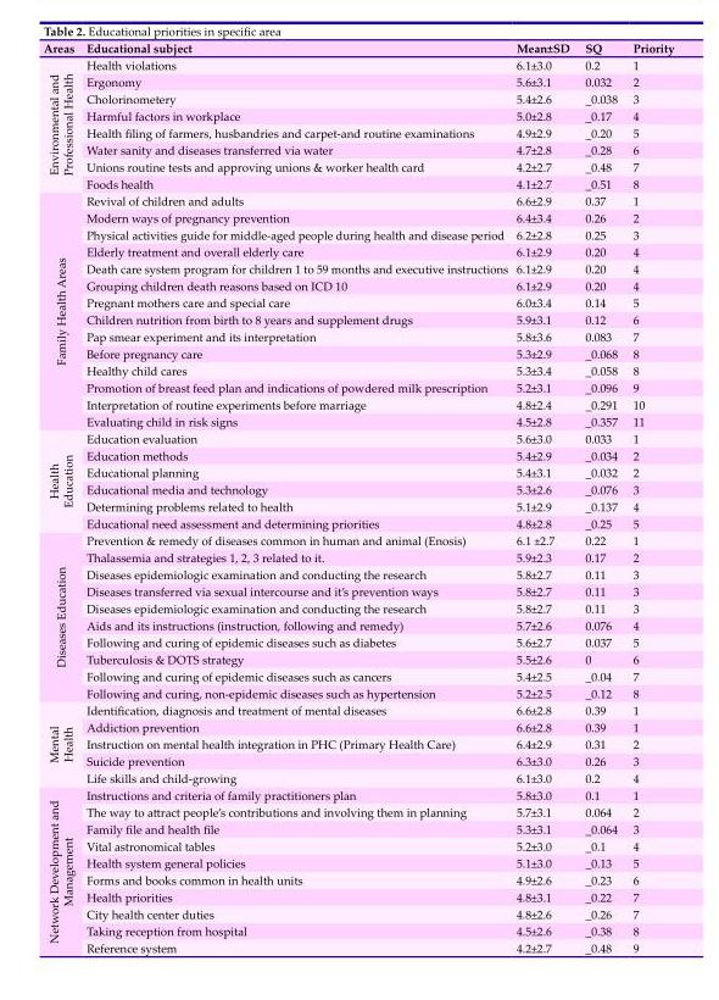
<table><thead><tr><td>Areas</td><td>Educational subject</td><td>Mean±SD</td><td>SQ</td><td>Priority</td></tr></thead><tbody><tr><td rowspan="8">Environmental and Professional Health</td><td>Health violations</td><td>6.1±3.0</td><td>0.2</td><td>1</td></tr><tr><td>Ergonomy</td><td>5.6±3.1</td><td>0.032</td><td>2</td></tr><tr><td>Cholorinometery</td><td>5.4±2.6</td><td>_0.038</td><td>3</td></tr><tr><td>Harmful factors in workplace</td><td>5.0±2.8</td><td>_0.17</td><td>4</td></tr><tr><td>Health filing of farmers, husbandries and carpet-and routine examinations</td><td>4.9±2.9</td><td>_0.20</td><td>5</td></tr><tr><td>Water sanity and diseases transferred via water</td><td>4.7±2.8</td><td>_0.28</td><td>6</td></tr><tr><td>Unions routine tests and approving unions &amp; worker health card</td><td>4.2±2.7</td><td>_0.48</td><td>7</td></tr><tr><td>Foods health</td><td>4.1±2.7</td><td>_0.51</td><td>8</td></tr><tr><td rowspan="14">Family Health Areas</td><td>Revival of children and adults</td><td>6.6±2.9</td><td>0.37</td><td>1</td></tr><tr><td>Modern ways of pregnancy prevention</td><td>6.4±3.4</td><td>0.26</td><td>2</td></tr><tr><td>Physical activities guide for middle-aged people during health and disease period</td><td>6.2±2.8</td><td>0.25</td><td>3</td></tr><tr><td>Elderly treatment and overall elderly care</td><td>6.1±2.9</td><td>0.20</td><td>4</td></tr><tr><td>Death care system program for children 1 to 59 months and executive instructions</td><td>6.1±2.9</td><td>0.20</td><td>4</td></tr><tr><td>Grouping children death reasons based on ICD 10</td><td>6.1±2.9</td><td>0.20</td><td>4</td></tr><tr><td>Pregnant mothers care and special care</td><td>6.0±3.4</td><td>0.14</td><td>5</td></tr><tr><td>Children nutrition from birth to 8 years and supplement drugs</td><td>5.9±3.1</td><td>0.12</td><td>6</td></tr><tr><td>Pap smear experiment and its interpretation</td><td>5.8±3.6</td><td>0.083</td><td>7</td></tr><tr><td>Before pregnancy care</td><td>5.3±2.9</td><td>_0.068</td><td>8</td></tr><tr><td>Healthy child cares</td><td>5.3±3.4</td><td>_0.058</td><td>8</td></tr><tr><td>Promotion of breast feed plan and indications of powdered milk prescription</td><td>5.2±3.1</td><td>_0.096</td><td>9</td></tr><tr><td>Interpretation of routine experiments before marriage</td><td>4.8±2.4</td><td>_0.291</td><td>10</td></tr><tr><td>Evaluating child in risk signs</td><td>4.5±2.8</td><td>_0.357</td><td>11</td></tr><tr><td rowspan="6">Health Education</td><td>Education evaluation</td><td>5.6±3.0</td><td>0.033</td><td>1</td></tr><tr><td>Education methods</td><td>5.4±2.9</td><td>_0.034</td><td>2</td></tr><tr><td>Educational planning</td><td>5.4±3.1</td><td>_0.032</td><td>2</td></tr><tr><td>Educational media and technology</td><td>5.3±2.6</td><td>_0.076</td><td>3</td></tr><tr><td>Determining problems related to health</td><td>5.1±2.9</td><td>_0.137</td><td>4</td></tr><tr><td>Educational need assessment and determining priorities</td><td>4.8±2.8</td><td>_0.25</td><td>5</td></tr><tr><td rowspan="10">Diseases Education</td><td>Prevention &amp; remedy of diseases common in human and animal (Enosis)</td><td>6.1 ±2.7</td><td>0.22</td><td>1</td></tr><tr><td>Thalassemia and strategies 1, 2, 3 related to it.</td><td>5.9±2.3</td><td>0.17</td><td>2</td></tr><tr><td>Diseases epidemiologic examination and conducting the research</td><td>5.8±2.7</td><td>0.11</td><td>3</td></tr><tr><td>Diseases transferred via sexual intercourse and it’s prevention ways</td><td>5.8±2.7</td><td>0.11</td><td>3</td></tr><tr><td>Diseases epidemiologic examination and conducting the research</td><td>5.8±2.7</td><td>0.11</td><td>3</td></tr><tr><td>Aids and its instructions (instruction, following and remedy)</td><td>5.7±2.6</td><td>0.076</td><td>4</td></tr><tr><td>Following and curing of epidemic diseases such as diabetes</td><td>5.6±2.7</td><td>0.037</td><td>5</td></tr><tr><td>Tuberculosis &amp; DOTS strategy</td><td>5.5±2.6</td><td>0</td><td>6</td></tr><tr><td>Following and curing of epidemic diseases such as cancers</td><td>5.4±2.5</td><td>_0.04</td><td>7</td></tr><tr><td>Following and curing, non-epidemic diseases such as hypertension</td><td>5.2±2.5</td><td>_0.12</td><td>8</td></tr><tr><td rowspan="5">Mental Health</td><td>Identification, diagnosis and treatment of mental diseases</td><td>6.6±2.8</td><td>0.39</td><td>1</td></tr><tr><td>Addiction prevention</td><td>6.6±2.8</td><td>0.39</td><td>1</td></tr><tr><td>Instruction on mental health integration in PHC (Primary Health Care)</td><td>6.4±2.9</td><td>0.31</td><td>2</td></tr><tr><td>Suicide prevention</td><td>6.3±3.0</td><td>0.26</td><td>3</td></tr><tr><td>Life skills and child-growing</td><td>6.1±3.0</td><td>0.2</td><td>4</td></tr><tr><td rowspan="10">Network Development and Management</td><td>Instructions and criteria of family practitioners plan</td><td>5.8±3.0</td><td>0.1</td><td>1</td></tr><tr><td>The way to attract people’s contributions and involving them in planning</td><td>5.7±3.1</td><td>0.064</td><td>2</td></tr><tr><td>Family file and health file</td><td>5.3±3.1</td><td>_0.064</td><td>3</td></tr><tr><td>Vital astronomical tables</td><td>5.2±3.0</td><td>_0.1</td><td>4</td></tr><tr><td>Health system general policies</td><td>5.1±3.0</td><td>_0.13</td><td>5</td></tr><tr><td>Forms and books common in health units</td><td>4.9±2.6</td><td>_0.23</td><td>6</td></tr><tr><td>Health priorities</td><td>4.8±3.1</td><td>_0.22</td><td>7</td></tr><tr><td>City health center duties</td><td>4.8±2.6</td><td>_0.26</td><td>7</td></tr><tr><td>Taking reception from hospital</td><td>4.5±2.6</td><td>_0.38</td><td>8</td></tr><tr><td>Reference system</td><td>4.2±2.7</td><td>_0.48</td><td>9</td></tr></tbody></table>